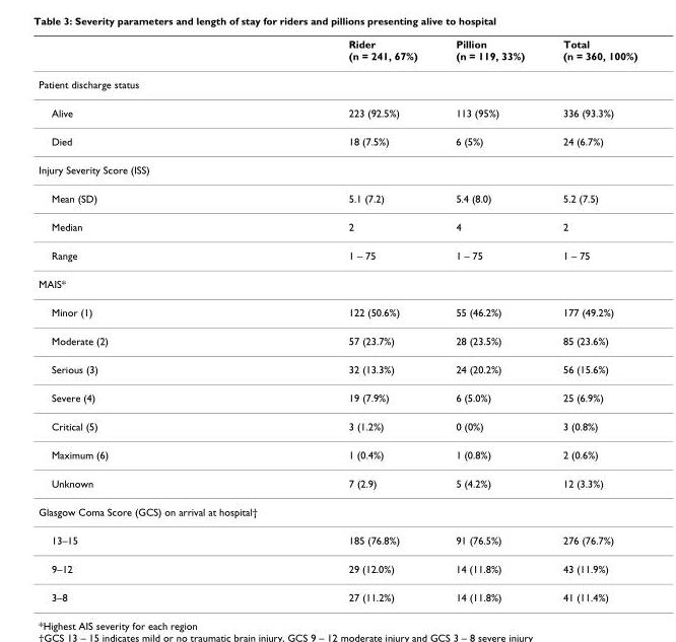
<table><thead><tr><td></td><td>Rider (n = 241, 67%)</td><td>Pillion (n = 119, 33%)</td><td>Total (n = 360, 100%)</td></tr></thead><tbody><tr><td colspan="4">Patient discharge status</td></tr><tr><td>Alive</td><td>223 (92.5%)</td><td>113 (95%)</td><td>336 (93.3%)</td></tr><tr><td>Died</td><td>18 (7.5%)</td><td>6 (5%)</td><td>24 (6.7%)</td></tr><tr><td colspan="4">Injury Severity Score (ISS)</td></tr><tr><td>Mean (SD)</td><td>5.1 (7.2)</td><td>5.4 (8.0)</td><td>5.2 (7.5)</td></tr><tr><td>Median</td><td>2</td><td>4</td><td>2</td></tr><tr><td>Range</td><td>1 – 75</td><td>1 – 75</td><td>1 – 75</td></tr><tr><td colspan="4">MAIS*</td></tr><tr><td>Minor (1)</td><td>122 (50.6%)</td><td>55 (46.2%)</td><td>177 (49.2%)</td></tr><tr><td>Moderate (2)</td><td>57 (23.7%)</td><td>28 (23.5%)</td><td>85 (23.6%)</td></tr><tr><td>Serious (3)</td><td>32 (13.3%)</td><td>24 (20.2%)</td><td>56 (15.6%)</td></tr><tr><td>Severe (4)</td><td>19 (7.9%)</td><td>6 (5.0%)</td><td>25 (6.9%)</td></tr><tr><td>Critical (5)</td><td>3 (1.2%)</td><td>0 (0%)</td><td>3 (0.8%)</td></tr><tr><td>Maximum (6)</td><td>1 (0.4%)</td><td>1 (0.8%)</td><td>2 (0.6%)</td></tr><tr><td>Unknown</td><td>7 (2.9)</td><td>5 (4.2%)</td><td>12 (3.3%)</td></tr><tr><td colspan="4">Glasgow Coma Score (GCS) on arrival at hospital†</td></tr><tr><td>13–15</td><td>185 (76.8%)</td><td>91 (76.5%)</td><td>276 (76.7%)</td></tr><tr><td>9–12</td><td>29 (12.0%)</td><td>14 (11.8%)</td><td>43 (11.9%)</td></tr><tr><td>3–8</td><td>27 (11.2%)</td><td>14 (11.8%)</td><td>41 (11.4%)</td></tr></tbody></table>